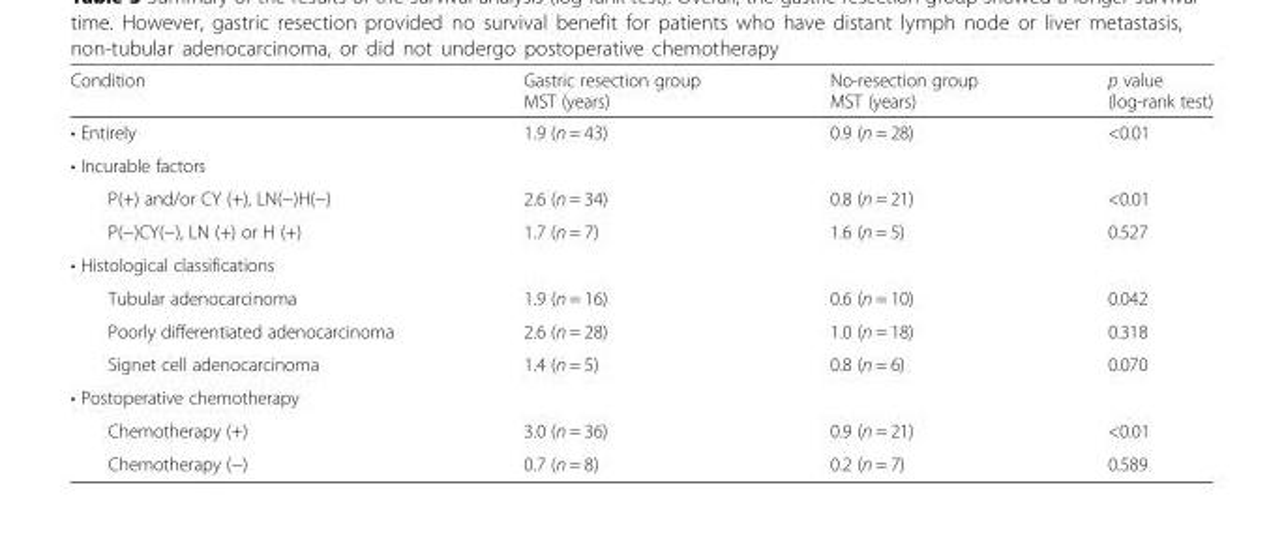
<table><thead><tr><td>Condition</td><td>Gastric resection group MST (years)</td><td>No-resection group MST (years)</td><td>p value (log-rank test)</td></tr></thead><tbody><tr><td>• Entirely</td><td>1.9 (n = 43)</td><td>0.9 (n = 28)</td><td>&lt;0.01</td></tr><tr><td colspan="4">• Incurable factors</td></tr><tr><td>P(+) and/or CY (+), LN(−)H(−)</td><td>2.6 (n = 34)</td><td>0.8 (n = 21)</td><td>&lt;0.01</td></tr><tr><td>P(−)CY(−), LN (+) or H (+)</td><td>1.7 (n = 7)</td><td>1.6 (n = 5)</td><td>0.527</td></tr><tr><td colspan="4">• Histological classifications</td></tr><tr><td>Tubular adenocarcinoma</td><td>1.9 (n = 16)</td><td>0.6 (n = 10)</td><td>0.042</td></tr><tr><td>Poorly differentiated adenocarcinoma</td><td>2.6 (n = 28)</td><td>1.0 (n = 18)</td><td>0.318</td></tr><tr><td>Signet cell adenocarcinoma</td><td>1.4 (n = 5)</td><td>0.8 (n = 6)</td><td>0.070</td></tr><tr><td colspan="4">• Postoperative chemotherapy</td></tr><tr><td>Chemotherapy (+)</td><td>3.0 (n = 36)</td><td>0.9 (n = 21)</td><td>&lt;0.01</td></tr><tr><td>Chemotherapy (−)</td><td>0.7 (n = 8)</td><td>0.2 (n = 7)</td><td>0.589</td></tr></tbody></table>